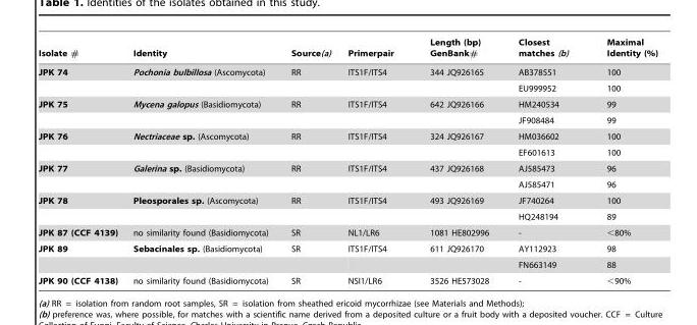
<table><thead><tr><td>Isolate #</td><td>Identity</td><td>Source(a)</td><td>Primerpair</td><td>Length (bp) GenBank#</td><td>Closest matches (b)</td><td>Maximal Identity (%)</td></tr></thead><tbody><tr><td rowspan="2">JPK 74</td><td>Pochonia bulbillosa (Ascomycota)</td><td>RR</td><td>ITS1F/ITS4</td><td>344 JQ926165</td><td>AB378551</td><td>100</td></tr><tr><td></td><td></td><td></td><td></td><td>EU999952</td><td>100</td></tr><tr><td rowspan="2">JPK 75</td><td>Mycena galopus (Basidiomycota)</td><td>RR</td><td>ITS1F/ITS4</td><td>642 JQ926166</td><td>HM240534</td><td>99</td></tr><tr><td></td><td></td><td></td><td></td><td>JF908484</td><td>99</td></tr><tr><td rowspan="2">JPK 76</td><td>Nectriaceae sp. (Ascomycota)</td><td>RR</td><td>ITS1F/ITS4</td><td>324 JQ926167</td><td>HM036602</td><td>100</td></tr><tr><td></td><td></td><td></td><td></td><td>EF601613</td><td>100</td></tr><tr><td rowspan="2">JPK 77</td><td>Galerina sp. (Basidiomycota)</td><td>RR</td><td>ITS1F/ITS4</td><td>437 JQ926168</td><td>AJ585473</td><td>96</td></tr><tr><td></td><td></td><td></td><td></td><td>AJ585471</td><td>96</td></tr><tr><td rowspan="2">JPK 78</td><td>Pleosporales sp. (Ascomycota)</td><td>RR</td><td>ITS1F/ITS4</td><td>493 JQ926169</td><td>JF740264</td><td>100</td></tr><tr><td></td><td></td><td></td><td></td><td>HQ248194</td><td>89</td></tr><tr><td>JPK 87 (CCF 4139)</td><td>no similarity found (Basidiomycota)</td><td>SR</td><td>NL1/LR6</td><td>1081 HE802996</td><td>-</td><td>&lt;80%</td></tr><tr><td rowspan="2">JPK 89</td><td>Sebacinales sp. (Basidiomycota)</td><td>SR</td><td>ITS1F/ITS4</td><td>611 JQ926170</td><td>AY112923</td><td>98</td></tr><tr><td></td><td></td><td></td><td></td><td>FN663149</td><td>88</td></tr><tr><td>JPK 90 (CCF 4138)</td><td>no similarity found (Basidiomycota)</td><td>SR</td><td>NSI1/LR6</td><td>3526 HE573028</td><td>-</td><td>&lt;90%</td></tr></tbody></table>